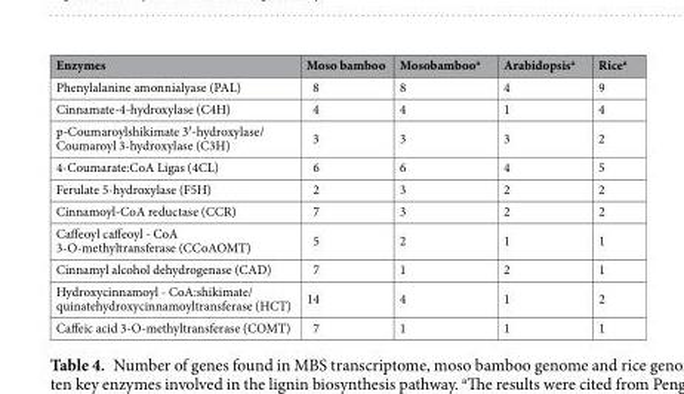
<table><thead><tr><td>Enzymes</td><td>Moso bamboo</td><td>Mosobamboo<sup>a</sup></td><td>Arabidopsis<sup>a</sup></td><td>Rice<sup>a</sup></td></tr></thead><tbody><tr><td>Phenylalanine amonnialyase (PAL)</td><td>8</td><td>8</td><td>4</td><td>9</td></tr><tr><td>Cinnamate-4-hydroxylase (C4H)</td><td>4</td><td>4</td><td>1</td><td>4</td></tr><tr><td>p-Coumaroylshikimate 3′-hydroxylase/ Coumaroyl 3-hydroxylase (C3H)</td><td>3</td><td>3</td><td>3</td><td>2</td></tr><tr><td>4-Coumarate:CoA Ligas (4CL)</td><td>6</td><td>6</td><td>4</td><td>5</td></tr><tr><td>Ferulate 5-hydroxylase (F5H)</td><td>2</td><td>3</td><td>2</td><td>2</td></tr><tr><td>Cinnamoyl-CoA reductase (CCR)</td><td>7</td><td>3</td><td>2</td><td>2</td></tr><tr><td>Caffeoyl caffeoyl - CoA 3-O-methyltransferase (CCoAOMT)</td><td>5</td><td>2</td><td>1</td><td>1</td></tr><tr><td>Cinnamyl alcohol dehydrogenase (CAD)</td><td>7</td><td>1</td><td>2</td><td>1</td></tr><tr><td>Hydroxycinnamoyl - CoA:shikimate/ quinatehydroxycinnamoyltransferase (HCT)</td><td>14</td><td>4</td><td>1</td><td>2</td></tr><tr><td>Caffeic acid 3-O-methyltransferase (COMT)</td><td>7</td><td>1</td><td>1</td><td>1</td></tr></tbody></table>